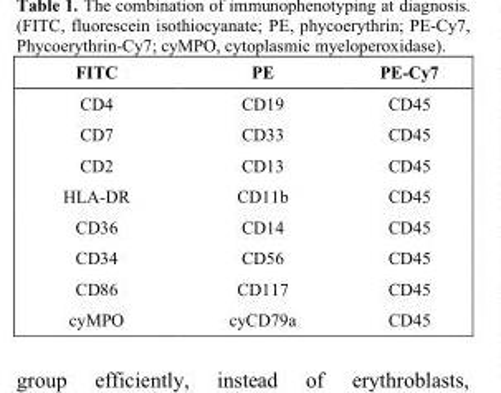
<table><thead><tr><td>FITC</td><td>PE</td><td>PE-Cy7</td></tr></thead><tbody><tr><td>CD4</td><td>CD19</td><td>CD45</td></tr><tr><td>CD7</td><td>CD33</td><td>CD45</td></tr><tr><td>CD2</td><td>CD13</td><td>CD45</td></tr><tr><td>HLA-DR</td><td>CD11b</td><td>CD45</td></tr><tr><td>CD36</td><td>CD14</td><td>CD45</td></tr><tr><td>CD34</td><td>CD56</td><td>CD45</td></tr><tr><td>CD86</td><td>CD117</td><td>CD45</td></tr><tr><td>cyMPO</td><td>cyCD79a</td><td>CD45</td></tr></tbody></table>